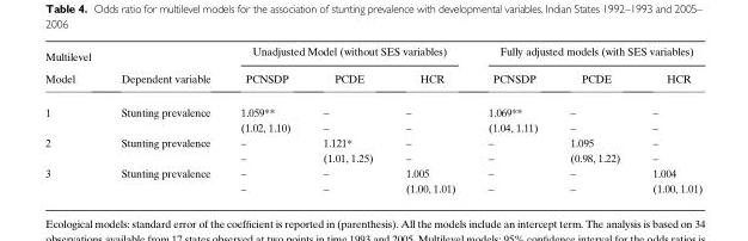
<table><thead><tr><td rowspan="2">Multilevel Model</td><td rowspan="2">Dependent variable</td><td colspan="3">Unadjusted Model (without SES variables)</td><td colspan="3">Fully adjusted models (with SES variables)</td></tr><tr><td>PCNSDP</td><td>PCDE</td><td>HCR</td><td>PCNSDP</td><td>PCDE</td><td>HCR</td></tr></thead><tbody><tr><td rowspan="2">1</td><td rowspan="2">Stunting prevalence</td><td>1.059**</td><td>–</td><td>–</td><td>1.069**</td><td>–</td><td>–</td></tr><tr><td>(1.02, 1.10)</td><td>–</td><td>–</td><td>(1.04, 1.11)</td><td>–</td><td>–</td></tr><tr><td rowspan="2">2</td><td rowspan="2">Stunting prevalence</td><td>–</td><td>1.121*</td><td>–</td><td>–</td><td>1.095</td><td>–</td></tr><tr><td>–</td><td>(1.01, 1.25)</td><td>–</td><td>–</td><td>(0.98, 1.22)</td><td>–</td></tr><tr><td rowspan="2">3</td><td rowspan="2">Stunting prevalence</td><td>–</td><td>–</td><td>1.005</td><td>–</td><td>–</td><td>1.004</td></tr><tr><td>–</td><td>–</td><td>(1.00, 1.01)</td><td>–</td><td>–</td><td>(1.00, 1.01)</td></tr></tbody></table>